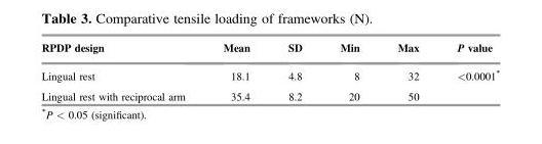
<table><thead><tr><td>RPDP design</td><td>Mean</td><td>SD</td><td>Min</td><td>Max</td><td>P value</td></tr></thead><tbody><tr><td>Lingual rest</td><td>18.1</td><td>4.8</td><td>8</td><td>32</td><td rowspan="2">&lt;0.0001*</td></tr><tr><td>Lingual rest with reciprocal arm</td><td>35.4</td><td>8.2</td><td>20</td><td>50</td></tr></tbody></table>